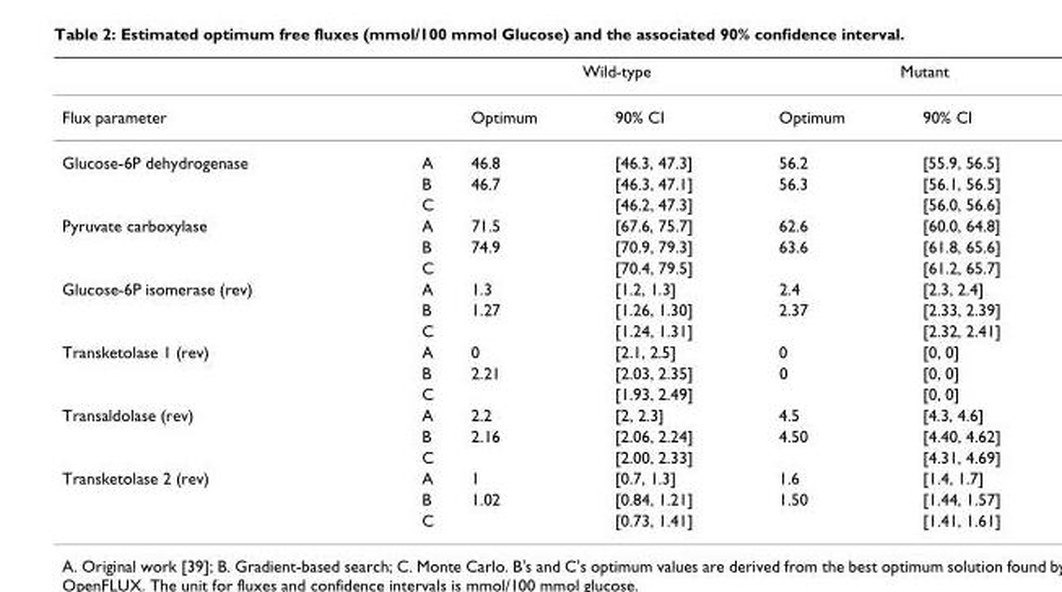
<table><thead><tr><td rowspan="2">Flux parameter</td><td rowspan="2"></td><td colspan="2">Wild-type</td><td colspan="2">Mutant</td></tr><tr><td>Optimum</td><td>90% CI</td><td>Optimum</td><td>90% CI</td></tr></thead><tbody><tr><td rowspan="3">Glucose-6P dehydrogenase</td><td>A</td><td>46.8</td><td>[46.3, 47.3]</td><td>56.2</td><td>[55.9, 56.5]</td></tr><tr><td>B</td><td>46.7</td><td>[46.3, 47.1]</td><td>56.3</td><td>[56.1, 56.5]</td></tr><tr><td>C</td><td></td><td>[46.2, 47.3]</td><td></td><td>[56.0, 56.6]</td></tr><tr><td rowspan="3">Pyruvate carboxylase</td><td>A</td><td>71.5</td><td>[67.6, 75.7]</td><td>62.6</td><td>[60.0, 64.8]</td></tr><tr><td>B</td><td>74.9</td><td>[70.9, 79.3]</td><td>63.6</td><td>[61.8, 65.6]</td></tr><tr><td>C</td><td></td><td>[70.4, 79.5]</td><td></td><td>[61.2, 65.7]</td></tr><tr><td rowspan="3">Glucose-6P isomerase (rev)</td><td>A</td><td>1.3</td><td>[1.2, 1.3]</td><td>2.4</td><td>[2.3, 2.4]</td></tr><tr><td>B</td><td>1.27</td><td>[1.26, 1.30]</td><td>2.37</td><td>[2.33, 2.39]</td></tr><tr><td>C</td><td></td><td>[1.24, 1.31]</td><td></td><td>[2.32, 2.41]</td></tr><tr><td rowspan="3">Transketolase 1 (rev)</td><td>A</td><td>0</td><td>[2.1, 2.5]</td><td>0</td><td>[0, 0]</td></tr><tr><td>B</td><td>2.21</td><td>[2.03, 2.35]</td><td>0</td><td>[0, 0]</td></tr><tr><td>C</td><td></td><td>[1.93, 2.49]</td><td></td><td>[0, 0]</td></tr><tr><td rowspan="3">Transaldolase (rev)</td><td>A</td><td>2.2</td><td>[2, 2.3]</td><td>4.5</td><td>[4.3, 4.6]</td></tr><tr><td>B</td><td>2.16</td><td>[2.06, 2.24]</td><td>4.50</td><td>[4.40, 4.62]</td></tr><tr><td>C</td><td></td><td>[2.00, 2.33]</td><td></td><td>[4.31, 4.69]</td></tr><tr><td rowspan="3">Transketolase 2 (rev)</td><td>A</td><td>1</td><td>[0.7, 1.3]</td><td>1.6</td><td>[1.4, 1.7]</td></tr><tr><td>B</td><td>1.02</td><td>[0.84, 1.21]</td><td>1.50</td><td>[1.44, 1.57]</td></tr><tr><td>C</td><td></td><td>[0.73, 1.41]</td><td></td><td>[1.41, 1.61]</td></tr></tbody></table>